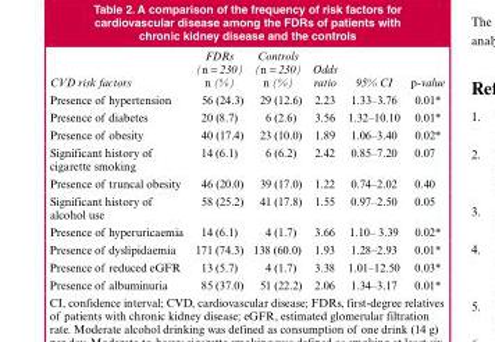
<table><thead><tr><td>CVD risk factors</td><td>FDRs (n = 230) n (%)</td><td>Controls (n = 230) n (%)</td><td>Odds ratio</td><td>95% CI</td><td>p-value</td></tr></thead><tbody><tr><td>Presence of hypertension</td><td>56 (24.3)</td><td>29 (12.6)</td><td>2.23</td><td>1.33–3.76</td><td>0.01*</td></tr><tr><td>Presence of diabetes</td><td>20 (8.7)</td><td>6 (2.6)</td><td>3.56</td><td>1.32–10.10</td><td>0.01*</td></tr><tr><td>Presence of obesity</td><td>40 (17.4)</td><td>23 (10.0)</td><td>1.89</td><td>1.06–3.40</td><td>0.02*</td></tr><tr><td>Significant history of cigarette smoking</td><td>14 (6.1)</td><td>6 (6.2)</td><td>2.42</td><td>0.85–7.20</td><td>0.07</td></tr><tr><td>Presence of truncal obesity</td><td>46 (20.0)</td><td>39 (17.0)</td><td>1.22</td><td>0.74–2.02</td><td>0.40</td></tr><tr><td>Significant history of alcohol use</td><td>58 (25.2)</td><td>41 (17.8)</td><td>1.55</td><td>0.97–2.50</td><td>0.05</td></tr><tr><td>Presence of hyperuricaemia</td><td>14 (6.1)</td><td>4 (1.7)</td><td>3.66</td><td>1.10– 3.39</td><td>0.02*</td></tr><tr><td>Presence of dyslipidaemia</td><td>171 (74.3)</td><td>138 (60.0)</td><td>1.93</td><td>1.28–2.93</td><td>0.01*</td></tr><tr><td>Presence of reduced eGFR</td><td>13 (5.7)</td><td>4 (1.7)</td><td>3.38</td><td>1.01–12.50</td><td>0.03*</td></tr><tr><td>Presence of albuminuria</td><td>85 (37.0)</td><td>51 (22.2)</td><td>2.06</td><td>1.34–3.17</td><td>0.01*</td></tr></tbody></table>